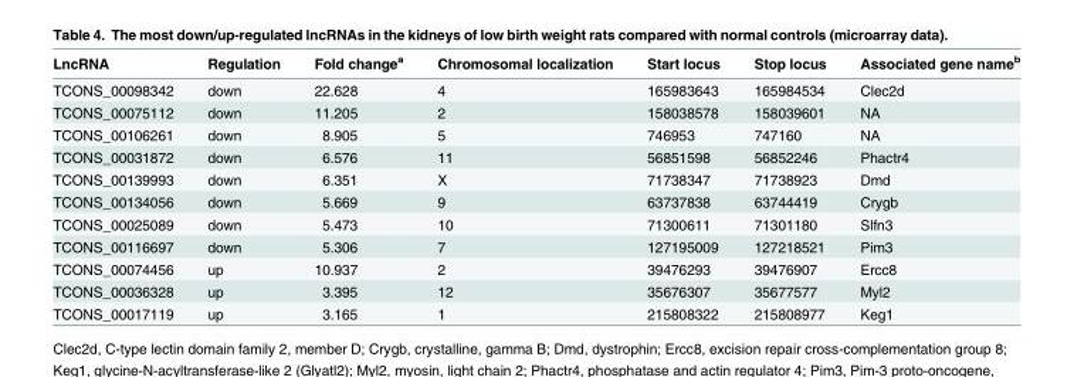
<table><thead><tr><td>LncRNA</td><td>Regulation</td><td>Fold change<sup>a</sup></td><td>Chromosomal localization</td><td>Start locus</td><td>Stop locus</td><td>Associated gene name<sup>b</sup></td></tr></thead><tbody><tr><td>TCONS_00098342</td><td>down</td><td>22.628</td><td>4</td><td>165983643</td><td>165984534</td><td>Clec2d</td></tr><tr><td>TCONS_00075112</td><td>down</td><td>11.205</td><td>2</td><td>158038578</td><td>158039601</td><td>NA</td></tr><tr><td>TCONS_00106261</td><td>down</td><td>8.905</td><td>5</td><td>746953</td><td>747160</td><td>NA</td></tr><tr><td>TCONS_00031872</td><td>down</td><td>6.576</td><td>11</td><td>56851598</td><td>56852246</td><td>Phactr4</td></tr><tr><td>TCONS_00139993</td><td>down</td><td>6.351</td><td>X</td><td>71738347</td><td>71738923</td><td>Dmd</td></tr><tr><td>TCONS_00134056</td><td>down</td><td>5.669</td><td>9</td><td>63737838</td><td>63744419</td><td>Crygb</td></tr><tr><td>TCONS_00025089</td><td>down</td><td>5.473</td><td>10</td><td>71300611</td><td>71301180</td><td>Slfn3</td></tr><tr><td>TCONS_00116697</td><td>down</td><td>5.306</td><td>7</td><td>127195009</td><td>127218521</td><td>Pim3</td></tr><tr><td>TCONS_00074456</td><td>up</td><td>10.937</td><td>2</td><td>39476293</td><td>39476907</td><td>Ercc8</td></tr><tr><td>TCONS_00036328</td><td>up</td><td>3.395</td><td>12</td><td>35676307</td><td>35677577</td><td>Myl2</td></tr><tr><td>TCONS_00017119</td><td>up</td><td>3.165</td><td>1</td><td>215808322</td><td>215808977</td><td>Keg1</td></tr></tbody></table>